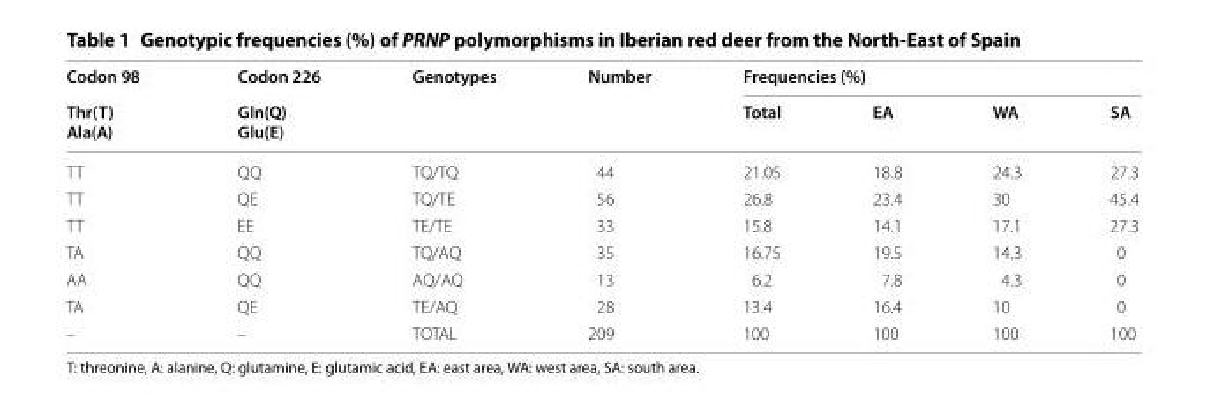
<table><thead><tr><td rowspan="2">Codon 98 Thr(T) Ala(A)</td><td rowspan="2">Codon 226 Gln(Q) Glu(E)</td><td rowspan="2">Genotypes</td><td rowspan="2">Number</td><td colspan="4">Frequencies (%)</td></tr><tr><td>Total</td><td>EA</td><td>WA</td><td>SA</td></tr></thead><tbody><tr><td>TT</td><td>QQ</td><td>TQ/TQ</td><td>44</td><td>21.05</td><td>18.8</td><td>24.3</td><td>27.3</td></tr><tr><td>TT</td><td>QE</td><td>TQ/TE</td><td>56</td><td>26.8</td><td>23.4</td><td>30</td><td>45.4</td></tr><tr><td>TT</td><td>EE</td><td>TE/TE</td><td>33</td><td>15.8</td><td>14.1</td><td>17.1</td><td>27.3</td></tr><tr><td>TA</td><td>QQ</td><td>TQ/AQ</td><td>35</td><td>16.75</td><td>19.5</td><td>14.3</td><td>0</td></tr><tr><td>AA</td><td>QQ</td><td>AQ/AQ</td><td>13</td><td>6.2</td><td>7.8</td><td>4.3</td><td>0</td></tr><tr><td>TA</td><td>QE</td><td>TE/AQ</td><td>28</td><td>13.4</td><td>16.4</td><td>10</td><td>0</td></tr><tr><td>–</td><td>–</td><td>TOTAL</td><td>209</td><td>100</td><td>100</td><td>100</td><td>100</td></tr></tbody></table>